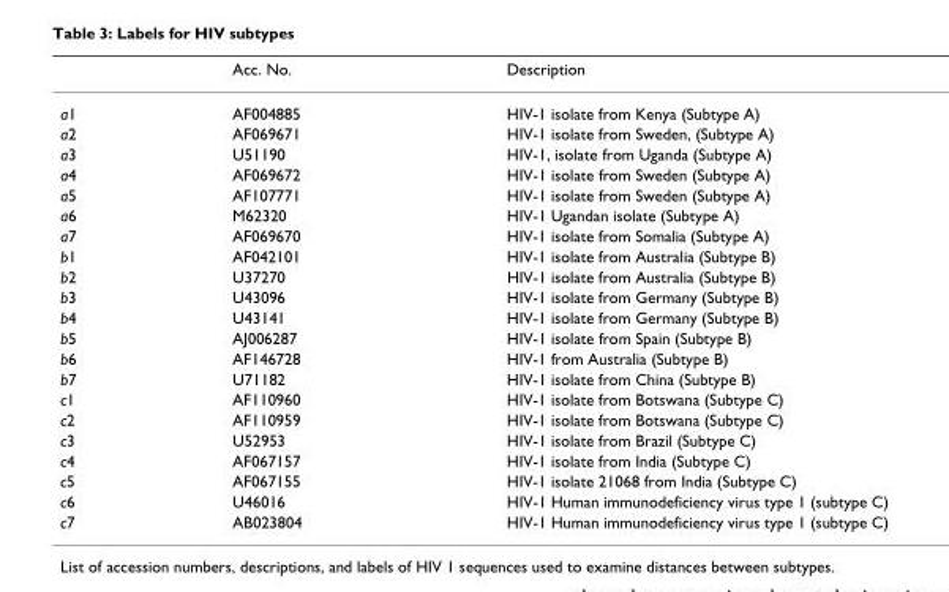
<table><thead><tr><td></td><td>Acc. No.</td><td>Description</td></tr></thead><tbody><tr><td>a1</td><td>AF004885</td><td>HIV-1 isolate from Kenya (Subtype A)</td></tr><tr><td>a2</td><td>AF069671</td><td>HIV-1 isolate from Sweden, (Subtype A)</td></tr><tr><td>a3</td><td>U51190</td><td>HIV-1, isolate from Uganda (Subtype A)</td></tr><tr><td>a4</td><td>AF069672</td><td>HIV-1 isolate from Sweden (Subtype A)</td></tr><tr><td>a5</td><td>AF107771</td><td>HIV-1 isolate from Sweden (Subtype A)</td></tr><tr><td>a6</td><td>M62320</td><td>HIV-1 Ugandan isolate (Subtype A)</td></tr><tr><td>a7</td><td>AF069670</td><td>HIV-1 isolate from Somalia (Subtype A)</td></tr><tr><td>b1</td><td>AF042101</td><td>HIV-1 isolate from Australia (Subtype B)</td></tr><tr><td>b2</td><td>U37270</td><td>HIV-1 isolate from Australia (Subtype B)</td></tr><tr><td>b3</td><td>U43096</td><td>HIV-1 isolate from Germany (Subtype B)</td></tr><tr><td>b4</td><td>U43141</td><td>HIV-1 isolate from Germany (Subtype B)</td></tr><tr><td>b5</td><td>AJ006287</td><td>HIV-1 isolate from Spain (Subtype B)</td></tr><tr><td>b6</td><td>AF146728</td><td>HIV-1 from Australia (Subtype B)</td></tr><tr><td>b7</td><td>U71182</td><td>HIV-1 isolate from China (Subtype B)</td></tr><tr><td>c1</td><td>AF110960</td><td>HIV-1 isolate from Botswana (Subtype C)</td></tr><tr><td>c2</td><td>AF110959</td><td>HIV-1 isolate from Botswana (Subtype C)</td></tr><tr><td>c3</td><td>U52953</td><td>HIV-1 isolate from Brazil (Subtype C)</td></tr><tr><td>c4</td><td>AF067157</td><td>HIV-1 isolate from India (Subtype C)</td></tr><tr><td>c5</td><td>AF067155</td><td>HIV-1 isolate 21068 from India (Subtype C)</td></tr><tr><td>c6</td><td>U46016</td><td>HIV-1 Human immunodeficiency virus type 1 (subtype C)</td></tr><tr><td>c7</td><td>AB023804</td><td>HIV-1 Human immunodeficiency virus type 1 (subtype C)</td></tr></tbody></table>